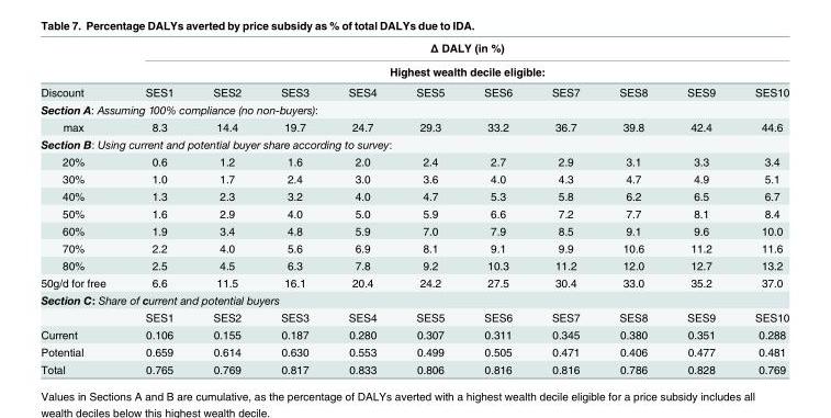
<table><thead><tr><td rowspan="3">Discount</td><td rowspan="2" colspan="10">Δ DALY (in %) Highest wealth decile eligible:</td></tr><tr></tr><tr><td>SES1</td><td>SES2</td><td>SES3</td><td>SES4</td><td>SES5</td><td>SES6</td><td>SES7</td><td>SES8</td><td>SES9</td><td>SES10</td></tr></thead><tbody><tr><td colspan="11">Section A: Assuming 100% compliance (no non-buyers):</td></tr><tr><td>max</td><td>8.3</td><td>14.4</td><td>19.7</td><td>24.7</td><td>29.3</td><td>33.2</td><td>36.7</td><td>39.8</td><td>42.4</td><td>44.6</td></tr><tr><td colspan="11">Section B: Using current and potential buyer share according to survey:</td></tr><tr><td>20%</td><td>0.6</td><td>1.2</td><td>1.6</td><td>2.0</td><td>2.4</td><td>2.7</td><td>2.9</td><td>3.1</td><td>3.3</td><td>3.4</td></tr><tr><td>30%</td><td>1.0</td><td>1.7</td><td>2.4</td><td>3.0</td><td>3.6</td><td>4.0</td><td>4.3</td><td>4.7</td><td>4.9</td><td>5.1</td></tr><tr><td>40%</td><td>1.3</td><td>2.3</td><td>3.2</td><td>4.0</td><td>4.7</td><td>5.3</td><td>5.8</td><td>6.2</td><td>6.5</td><td>6.7</td></tr><tr><td>50%</td><td>1.6</td><td>2.9</td><td>4.0</td><td>5.0</td><td>5.9</td><td>6.6</td><td>7.2</td><td>7.7</td><td>8.1</td><td>8.4</td></tr><tr><td>60%</td><td>1.9</td><td>3.4</td><td>4.8</td><td>5.9</td><td>7.0</td><td>7.9</td><td>8.5</td><td>9.1</td><td>9.6</td><td>10.0</td></tr><tr><td>70%</td><td>2.2</td><td>4.0</td><td>5.6</td><td>6.9</td><td>8.1</td><td>9.1</td><td>9.9</td><td>10.6</td><td>11.2</td><td>11.6</td></tr><tr><td>80%</td><td>2.5</td><td>4.5</td><td>6.3</td><td>7.8</td><td>9.2</td><td>10.3</td><td>11.2</td><td>12.0</td><td>12.7</td><td>13.2</td></tr><tr><td>50g/d for free</td><td>6.6</td><td>11.5</td><td>16.1</td><td>20.4</td><td>24.2</td><td>27.5</td><td>30.4</td><td>33.0</td><td>35.2</td><td>37.0</td></tr><tr><td colspan="11">Section C: Share of current and potential buyers</td></tr><tr><td></td><td>SES1</td><td>SES2</td><td>SES3</td><td>SES4</td><td>SES5</td><td>SES6</td><td>SES7</td><td>SES8</td><td>SES9</td><td>SES10</td></tr><tr><td>Current</td><td>0.106</td><td>0.155</td><td>0.187</td><td>0.280</td><td>0.307</td><td>0.311</td><td>0.345</td><td>0.380</td><td>0.351</td><td>0.288</td></tr><tr><td>Potential</td><td>0.659</td><td>0.614</td><td>0.630</td><td>0.553</td><td>0.499</td><td>0.505</td><td>0.471</td><td>0.406</td><td>0.477</td><td>0.481</td></tr><tr><td>Total</td><td>0.765</td><td>0.769</td><td>0.817</td><td>0.833</td><td>0.806</td><td>0.816</td><td>0.816</td><td>0.786</td><td>0.828</td><td>0.769</td></tr></tbody></table>